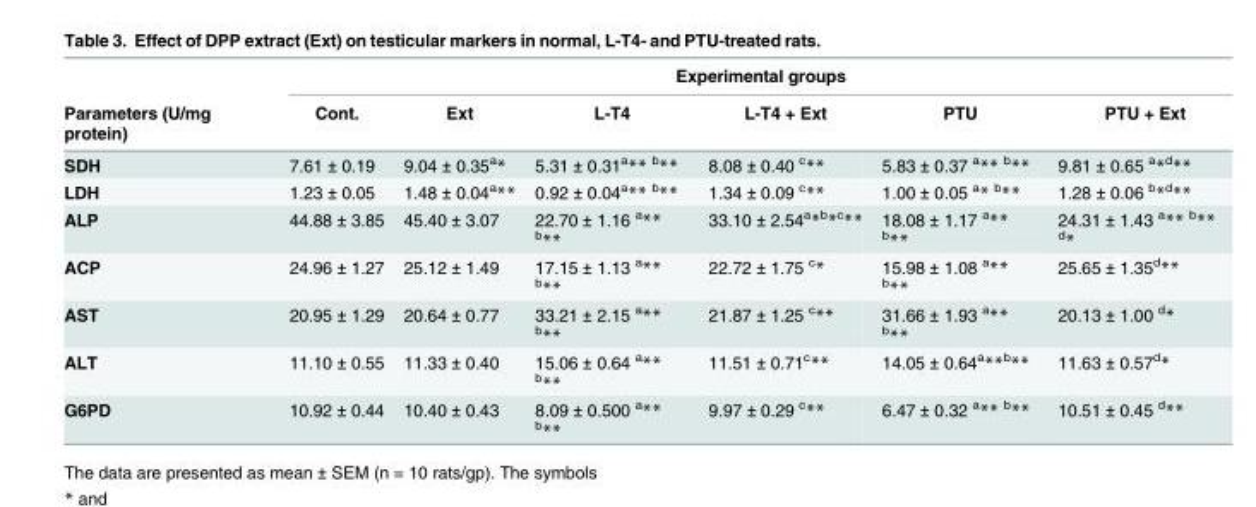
<table><thead><tr><td rowspan="2">Parameters (U/mg protein)</td><td colspan="6">Experimental groups</td></tr><tr><td>Cont.</td><td>Ext</td><td>L-T4</td><td>L-T4 + Ext</td><td>PTU</td><td>PTU + Ext</td></tr></thead><tbody><tr><td>SDH</td><td>7.61 ± 0.19</td><td>9.04 ± 0.35a*</td><td>5.31 ± 0.31a** b**</td><td>8.08 ± 0.40 c**</td><td>5.83 ± 0.37 a** b**</td><td>9.81 ± 0.65 a*d**</td></tr><tr><td>LDH</td><td>1.23 ± 0.05</td><td>1.48 ± 0.04a**</td><td>0.92 ± 0.04a** b**</td><td>1.34 ± 0.09 c**</td><td>1.00 ± 0.05 a* b**</td><td>1.28 ± 0.06 b*d**</td></tr><tr><td>ALP</td><td>44.88 ± 3.85</td><td>45.40 ± 3.07</td><td>22.70 ± 1.16 a** b**</td><td>33.10 ± 2.54a*b*c**</td><td>18.08 ± 1.17 a** b**</td><td>24.31 ± 1.43 a** d*</td></tr><tr><td>ACP</td><td>24.96 ± 1.27</td><td>25.12 ± 1.49</td><td>17.15 ± 1.13 a** b**</td><td>22.72 ± 1.75 c*</td><td>15.98 ± 1.08 a** b**</td><td>25.65 ± 1.35d**</td></tr><tr><td>AST</td><td>20.95 ± 1.29</td><td>20.64 ± 0.77</td><td>33.21 ± 2.15 a** b**</td><td>21.87 ± 1.25 c**</td><td>31.66 ± 1.93 a** b**</td><td>20.13 ± 1.00 d*</td></tr><tr><td>ALT</td><td>11.10 ± 0.55</td><td>11.33 ± 0.40</td><td>15.06 ± 0.64 a** b**</td><td>11.51 ± 0.71c**</td><td>14.05 ± 0.64a**b**</td><td>11.63 ± 0.57d*</td></tr><tr><td>G6PD</td><td>10.92 ± 0.44</td><td>10.40 ± 0.43</td><td>8.09 ± 0.500 a** b**</td><td>9.97 ± 0.29 c**</td><td>6.47 ± 0.32 a** b**</td><td>10.51 ± 0.45 d**</td></tr></tbody></table>